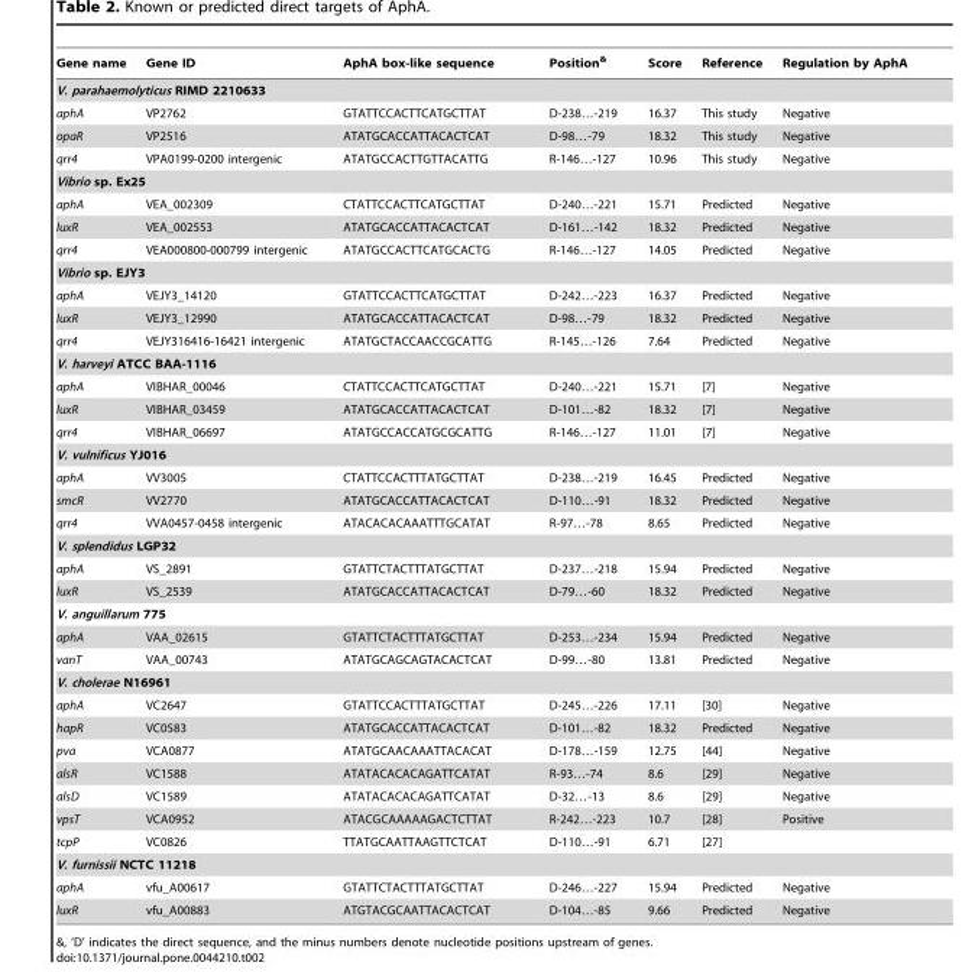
<table><thead><tr><td>Gene name</td><td>Gene ID</td><td>AphA box-like sequence</td><td>Position<sup>&amp;</sup></td><td>Score</td><td>Reference</td><td>Regulation by AphA</td></tr></thead><tbody><tr><td colspan="7">V. parahaemolyticus RIMD 2210633</td></tr><tr><td>aphA</td><td>VP2762</td><td>GTATTCCACTTCATGCTTAT</td><td>D-238…-219</td><td>16.37</td><td>This study</td><td>Negative</td></tr><tr><td>opaR</td><td>VP2516</td><td>ATATGCACCATTACACTCAT</td><td>D-98…-79</td><td>18.32</td><td>This study</td><td>Negative</td></tr><tr><td>qrr4</td><td>VPA0199-0200 intergenic</td><td>ATATGCCACTTGTTACATTG</td><td>R-146…-127</td><td>10.96</td><td>This study</td><td>Negative</td></tr><tr><td colspan="7">Vibrio sp. Ex25</td></tr><tr><td>aphA</td><td>VEA_002309</td><td>CTATTCCACTTCATGCTTAT</td><td>D-240…-221</td><td>15.71</td><td>Predicted</td><td>Negative</td></tr><tr><td>luxR</td><td>VEA_002553</td><td>ATATGCACCATTACACTCAT</td><td>D-161…-142</td><td>18.32</td><td>Predicted</td><td>Negative</td></tr><tr><td>qrr4</td><td>VEA000800-000799 intergenic</td><td>ATATGCCACTTCATGCACTG</td><td>R-146…-127</td><td>14.05</td><td>Predicted</td><td>Negative</td></tr><tr><td colspan="7">Vibrio sp. EJY3</td></tr><tr><td>aphA</td><td>VEJY3_14120</td><td>GTATTCCACTTCATGCTTAT</td><td>D-242…-223</td><td>16.37</td><td>Predicted</td><td>Negative</td></tr><tr><td>luxR</td><td>VEJY3_12990</td><td>ATATGCACCATTACACTCAT</td><td>D-98…-79</td><td>18.32</td><td>Predicted</td><td>Negative</td></tr><tr><td>qrr4</td><td>VEJY316416-16421 intergenic</td><td>ATATGCTACCAACCGCATTG</td><td>R-145…-126</td><td>7.64</td><td>Predicted</td><td>Negative</td></tr><tr><td colspan="7">V. harveyi ATCC BAA-1116</td></tr><tr><td>aphA</td><td>VIBHAR_00046</td><td>CTATTCCACTTCATGCTTAT</td><td>D-240…-221</td><td>15.71</td><td>[7]</td><td>Negative</td></tr><tr><td>luxR</td><td>VIBHAR_03459</td><td>ATATGCACCATTACACTCAT</td><td>D-101…-82</td><td>18.32</td><td>[7]</td><td>Negative</td></tr><tr><td>qrr4</td><td>VIBHAR_06697</td><td>ATATGCCACCATGCGCATTG</td><td>R-146…-127</td><td>11.01</td><td>[7]</td><td>Negative</td></tr><tr><td colspan="7">V. vulnificus YJ016</td></tr><tr><td>aphA</td><td>VV3005</td><td>CTATTCCACTTTATGCTTAT</td><td>D-238…-219</td><td>16.45</td><td>Predicted</td><td>Negative</td></tr><tr><td>smcR</td><td>VV2770</td><td>ATATGCACCATTACACTCAT</td><td>D-110…-91</td><td>18.32</td><td>Predicted</td><td>Negative</td></tr><tr><td>qrr4</td><td>VVA0457-0458 intergenic</td><td>ATACACACAAATTTGCATAT</td><td>R-97…-78</td><td>8.65</td><td>Predicted</td><td>Negative</td></tr><tr><td colspan="7">V. splendidus LGP32</td></tr><tr><td>aphA</td><td>VS_2891</td><td>GTATTCTACTTTATGCTTAT</td><td>D-237…-218</td><td>15.94</td><td>Predicted</td><td>Negative</td></tr><tr><td>luxR</td><td>VS_2539</td><td>ATATGCACCATTACACTCAT</td><td>D-79…-60</td><td>18.32</td><td>Predicted</td><td>Negative</td></tr><tr><td colspan="7">V. anguillarum 775</td></tr><tr><td>aphA</td><td>VAA_02615</td><td>GTATTCTACTTTATGCTTAT</td><td>D-253…-234</td><td>15.94</td><td>Predicted</td><td>Negative</td></tr><tr><td>vanT</td><td>VAA_00743</td><td>ATATGCAGCAGTACACTCAT</td><td>D-99…-80</td><td>13.81</td><td>Predicted</td><td>Negative</td></tr><tr><td colspan="7">V. cholerae N16961</td></tr><tr><td>aphA</td><td>VC2647</td><td>GTATTCCACTTTATGCTTAT</td><td>D-245…-226</td><td>17.11</td><td>[30]</td><td>Negative</td></tr><tr><td>hapR</td><td>VC0583</td><td>ATATGCACCATTACACTCAT</td><td>D-101…-82</td><td>18.32</td><td>Predicted</td><td>Negative</td></tr><tr><td>pva</td><td>VCA0877</td><td>ATATGCAACAAATTACACAT</td><td>D-178…-159</td><td>12.75</td><td>[44]</td><td>Negative</td></tr><tr><td>alsR</td><td>VC1588</td><td>ATATACACACAGATTCATAT</td><td>R-93…-74</td><td>8.6</td><td>[29]</td><td>Negative</td></tr><tr><td>alsD</td><td>VC1589</td><td>ATATACACACAGATTCATAT</td><td>D-32…-13</td><td>8.6</td><td>[29]</td><td>Negative</td></tr><tr><td>vpsT</td><td>VCA0952</td><td>ATACGCAAAAAGACTCTTAT</td><td>R-242…-223</td><td>10.7</td><td>[28]</td><td>Positive</td></tr><tr><td>tcpP</td><td>VC0826</td><td>TTATGCAATTAAGTTCTCAT</td><td>D-110…-91</td><td>6.71</td><td>[27]</td><td></td></tr><tr><td colspan="7">V. furnissii NCTC 11218</td></tr><tr><td>aphA</td><td>vfu_A00617</td><td>GTATTCTACTTTATGCTTAT</td><td>D-246…-227</td><td>15.94</td><td>Predicted</td><td>Negative</td></tr><tr><td>luxR</td><td>vfu_A00883</td><td>ATGTACGCAATTACACTCAT</td><td>D-104…-85</td><td>9.66</td><td>Predicted</td><td>Negative</td></tr></tbody></table>